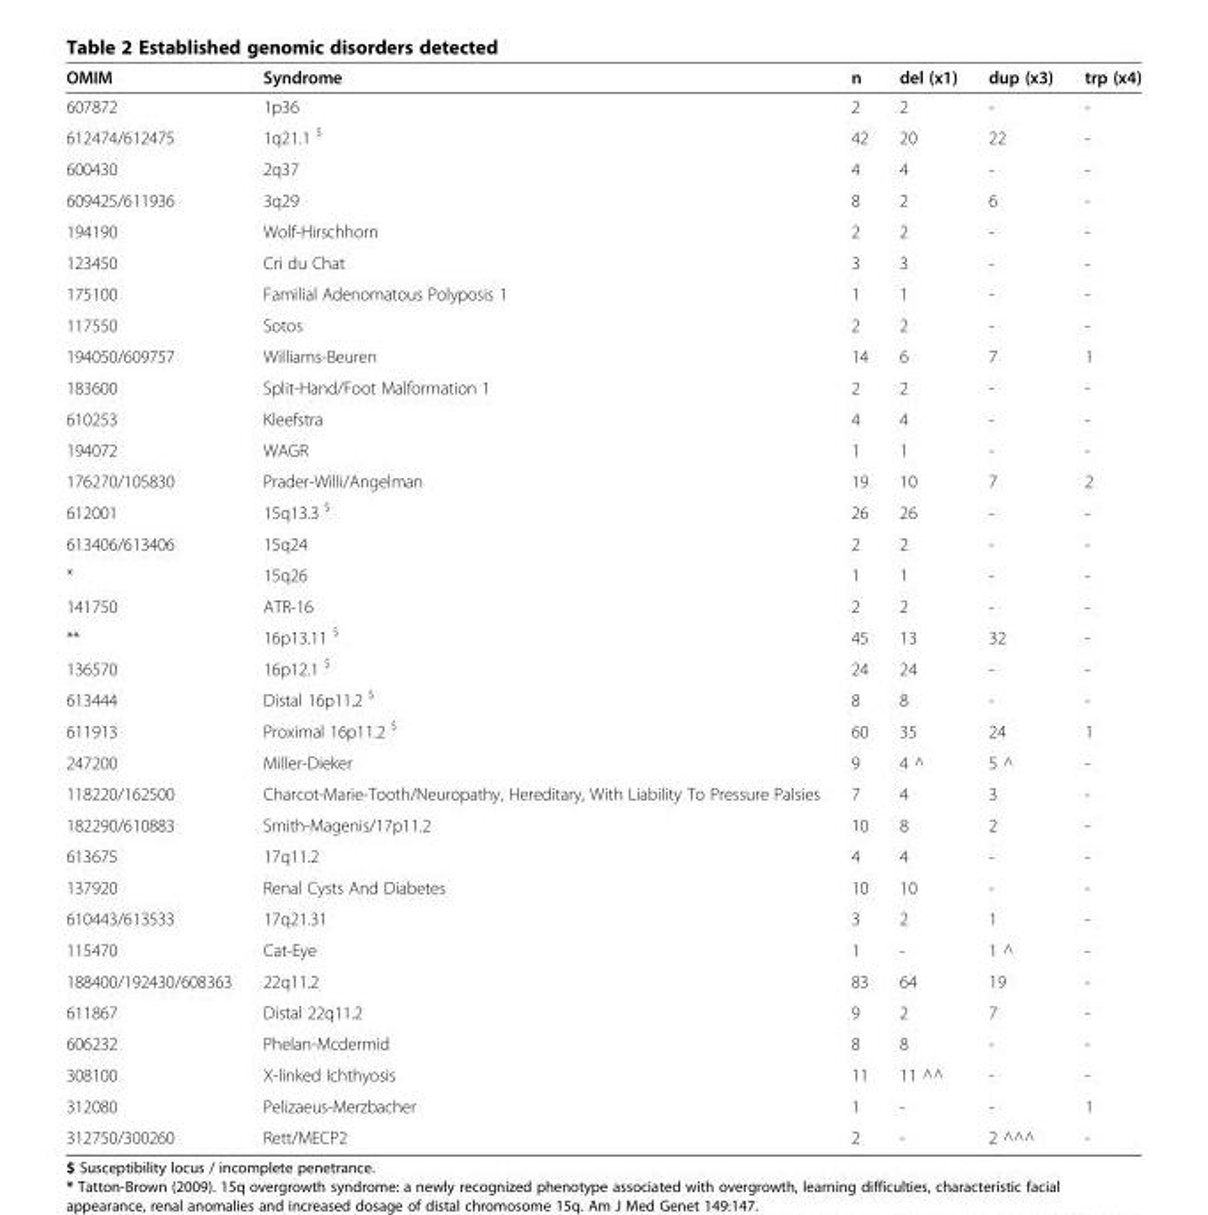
<table><thead><tr><td>OMIM</td><td>Syndrome</td><td>n</td><td>del (x1)</td><td>dup (x3)</td><td>trp (x4)</td></tr></thead><tbody><tr><td>607872</td><td>1p36</td><td>2</td><td>2</td><td>-</td><td>-</td></tr><tr><td>612474/612475</td><td>1q21.1 <sup>$</sup></td><td>42</td><td>20</td><td>22</td><td>-</td></tr><tr><td>600430</td><td>2q37</td><td>4</td><td>4</td><td>-</td><td>-</td></tr><tr><td>609425/611936</td><td>3q29</td><td>8</td><td>2</td><td>6</td><td>-</td></tr><tr><td>194190</td><td>Wolf-Hirschhorn</td><td>2</td><td>2</td><td>-</td><td>-</td></tr><tr><td>123450</td><td>Cri du Chat</td><td>3</td><td>3</td><td>-</td><td>-</td></tr><tr><td>175100</td><td>Familial Adenomatous Polyposis 1</td><td>1</td><td>1</td><td>-</td><td>-</td></tr><tr><td>117550</td><td>Sotos</td><td>2</td><td>2</td><td>-</td><td>-</td></tr><tr><td>194050/609757</td><td>Williams-Beuren</td><td>14</td><td>6</td><td>7</td><td>1</td></tr><tr><td>183600</td><td>Split-Hand/Foot Malformation 1</td><td>2</td><td>2</td><td>-</td><td>-</td></tr><tr><td>610253</td><td>Kleefstra</td><td>4</td><td>4</td><td>-</td><td>-</td></tr><tr><td>194072</td><td>WAGR</td><td>1</td><td>1</td><td>-</td><td>-</td></tr><tr><td>176270/105830</td><td>Prader-Willi/Angelman</td><td>19</td><td>10</td><td>7</td><td>2</td></tr><tr><td>612001</td><td>15q13.3 <sup>$</sup></td><td>26</td><td>26</td><td>-</td><td>-</td></tr><tr><td>613406/613406</td><td>15q24</td><td>2</td><td>2</td><td>-</td><td>-</td></tr><tr><td>*</td><td>15q26</td><td>1</td><td>1</td><td>-</td><td>-</td></tr><tr><td>141750</td><td>ATR-16</td><td>2</td><td>2</td><td>-</td><td>-</td></tr><tr><td>**</td><td>16p13.11 <sup>$</sup></td><td>45</td><td>13</td><td>32</td><td>-</td></tr><tr><td>136570</td><td>16p12.1 <sup>$</sup></td><td>24</td><td>24</td><td>-</td><td>-</td></tr><tr><td>613444</td><td>Distal 16p11.2 <sup>$</sup></td><td>8</td><td>8</td><td>-</td><td>-</td></tr><tr><td>611913</td><td>Proximal 16p11.2 <sup>$</sup></td><td>60</td><td>35</td><td>24</td><td>1</td></tr><tr><td>247200</td><td>Miller-Dieker</td><td>9</td><td>4 ^</td><td>5 ^</td><td>-</td></tr><tr><td>118220/162500</td><td>Charcot-Marie-Tooth/Neuropathy, Hereditary, With Liability To Pressure Palsies</td><td>7</td><td>4</td><td>3</td><td>-</td></tr><tr><td>182290/610883</td><td>Smith-Magenis/17p11.2</td><td>10</td><td>8</td><td>2</td><td>-</td></tr><tr><td>613675</td><td>17q11.2</td><td>4</td><td>4</td><td>-</td><td>-</td></tr><tr><td>137920</td><td>Renal Cysts And Diabetes</td><td>10</td><td>10</td><td>-</td><td>-</td></tr><tr><td>610443/613533</td><td>17q21.31</td><td>3</td><td>2</td><td>1</td><td>-</td></tr><tr><td>115470</td><td>Cat-Eye</td><td>1</td><td>-</td><td>1 ^</td><td>-</td></tr><tr><td>188400/192430/608363</td><td>22q11.2</td><td>83</td><td>64</td><td>19</td><td>-</td></tr><tr><td>611867</td><td>Distal 22q11.2</td><td>9</td><td>2</td><td>7</td><td>-</td></tr><tr><td>606232</td><td>Phelan-Mcdermid</td><td>8</td><td>8</td><td>-</td><td>-</td></tr><tr><td>308100</td><td>X-linked Ichthyosis</td><td>11</td><td>11 ^^</td><td>-</td><td>-</td></tr><tr><td>312080</td><td>Pelizaeus-Merzbacher</td><td>1</td><td>-</td><td>-</td><td>1</td></tr><tr><td>312750/300260</td><td>Rett/MECP2</td><td>2</td><td>-</td><td>2 ^^^</td><td>-</td></tr></tbody></table>